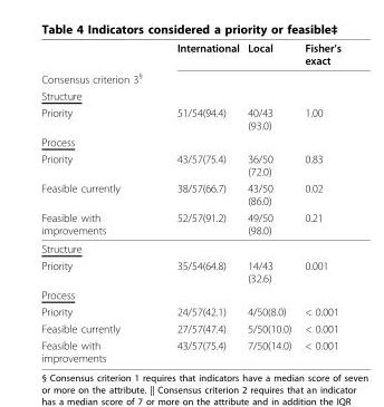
<table><thead><tr><td rowspan="8">Consensus criterion 3§ Structure Priority Process Priority Feasible currently Feasible with improvements</td><td rowspan="8">International 51/54(94.4) 43/57(75.4) 38/57(66.7) 52/57(91.2)</td><td rowspan="8">Local 40/43 (93.0) 36/50 (72.0) 43/50 (86.0) 49/50 (98.0)</td><td rowspan="8">Fisher’s exact 1.00 0.83 0.02 0.21</td></tr><tr></tr><tr></tr><tr></tr><tr></tr><tr></tr><tr></tr><tr></tr></thead><tbody><tr><td colspan="4">Structure</td></tr><tr><td>Priority</td><td>35/54(64.8)</td><td>14/43 (32.6)</td><td>0.001</td></tr><tr><td colspan="4">Process</td></tr><tr><td>Priority</td><td>24/57(42.1)</td><td>4/50(8.0)</td><td>&lt; 0.001</td></tr><tr><td>Feasible currently</td><td>27/57(47.4)</td><td>5/50(10.0)</td><td>&lt; 0.001</td></tr><tr><td>Feasible with improvements</td><td>43/57(75.4)</td><td>7/50(14.0)</td><td>&lt; 0.001</td></tr></tbody></table>